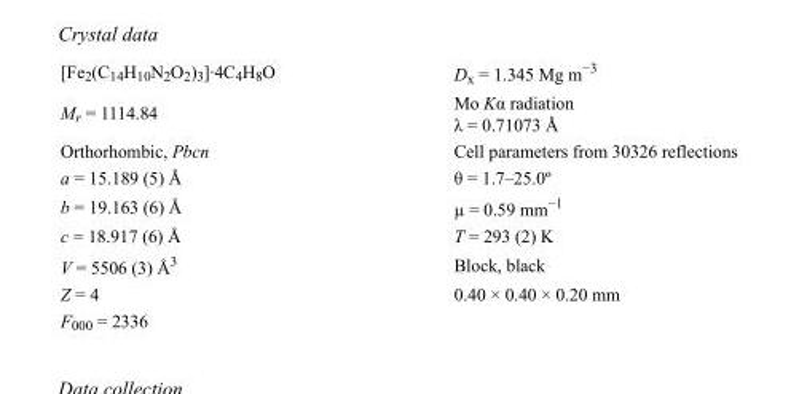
<table><tbody><tr><td>[Fe<sub>2</sub>(C<sub>14</sub>H<sub>10</sub>N<sub>2</sub>O<sub>2</sub>)<sub>3</sub>]·4C<sub>4</sub>H<sub>8</sub>O</td><td>D<sub>x</sub> = 1.345 Mg m<sup>−3</sup></td></tr><tr><td>M<sub>r</sub> = 1114.84</td><td>Mo Kα radiation λ = 0.71073 Å</td></tr><tr><td>Orthorhombic, Pbcn</td><td>Cell parameters from 30326 reflections</td></tr><tr><td>a = 15.189 (5) Å</td><td>θ = 1.7–25.0º</td></tr><tr><td>b = 19.163 (6) Å</td><td>µ = 0.59 mm<sup>−1</sup></td></tr><tr><td>c = 18.917 (6) Å</td><td>T = 293 (2) K</td></tr><tr><td>V = 5506 (3) Å<sup>3</sup></td><td>Block, black</td></tr><tr><td>Z = 4</td><td>0.40 × 0.40 × 0.20 mm</td></tr><tr><td>F<sub>000</sub> = 2336</td><td></td></tr></tbody></table>